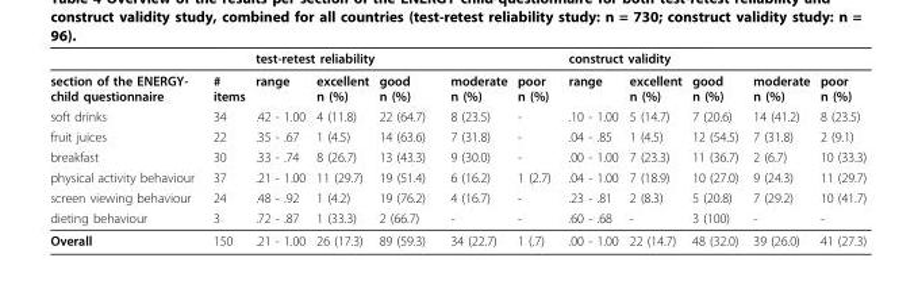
<table><thead><tr><td rowspan="2">section of the ENERGY- child questionnaire</td><td rowspan="2"># items</td><td colspan="5">test-retest reliability</td><td colspan="5">construct validity</td></tr><tr><td>range</td><td>excellent n (%)</td><td>good n (%)</td><td>moderate n (%)</td><td>poor n (%)</td><td>range</td><td>excellent n (%)</td><td>good n (%)</td><td>moderate n (%)</td><td>poor n (%)</td></tr></thead><tbody><tr><td>soft drinks</td><td>34</td><td>.42 - 1.00</td><td>4 (11.8)</td><td>22 (64.7)</td><td>8 (23.5)</td><td>-</td><td>.10 - 1.00</td><td>5 (14.7)</td><td>7 (20.6)</td><td>14 (41.2)</td><td>8 (23.5)</td></tr><tr><td>fruit juices</td><td>22</td><td>.35 - .67</td><td>1 (4.5)</td><td>14 (63.6)</td><td>7 (31.8)</td><td>-</td><td>.04 - .85</td><td>1 (4.5)</td><td>12 (54.5)</td><td>7 (31.8)</td><td>2 (9.1)</td></tr><tr><td>breakfast</td><td>30</td><td>.33 - .74</td><td>8 (26.7)</td><td>13 (43.3)</td><td>9 (30.0)</td><td>-</td><td>.00 - 1.00</td><td>7 (23.3)</td><td>11 (36.7)</td><td>2 (6.7)</td><td>10 (33.3)</td></tr><tr><td>physical activity behaviour</td><td>37</td><td>.21 - 1.00</td><td>11 (29.7)</td><td>19 (51.4)</td><td>6 (16.2)</td><td>1 (2.7)</td><td>.04 - 1.00</td><td>7 (18.9)</td><td>10 (27.0)</td><td>9 (24.3)</td><td>11 (29.7)</td></tr><tr><td>screen viewing behaviour</td><td>24</td><td>.48 - .92</td><td>1 (4.2)</td><td>19 (76.2)</td><td>4 (16.7)</td><td>-</td><td>.23 - .81</td><td>2 (8.3)</td><td>5 (20.8)</td><td>7 (29.2)</td><td>10 (41.7)</td></tr><tr><td>dieting behaviour</td><td>3</td><td>.72 - .87</td><td>1 (33.3)</td><td>2 (66.7)</td><td>-</td><td>-</td><td>.60 - .68</td><td>-</td><td>3 (100)</td><td>-</td><td>-</td></tr><tr><td>Overall</td><td>150</td><td>.21 - 1.00</td><td>26 (17.3)</td><td>89 (59.3)</td><td>34 (22.7)</td><td>1 (.7)</td><td>.00 - 1.00</td><td>22 (14.7)</td><td>48 (32.0)</td><td>39 (26.0)</td><td>41 (27.3)</td></tr></tbody></table>